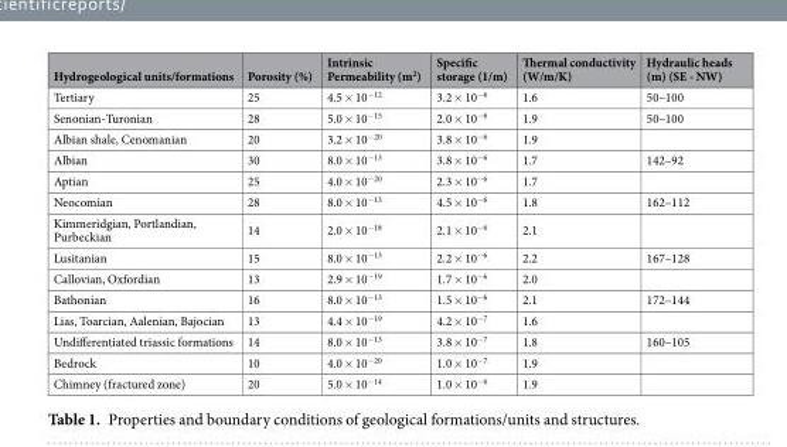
<table><thead><tr><td>Hydrogeological units/formations</td><td>Porosity (%)</td><td>Intrinsic Permeability (m<sup>2</sup>)</td><td>Specific storage (1/m)</td><td>Thermal conductivity (W/m/K)</td><td>Hydraulic heads (m) (SE - NW)</td></tr></thead><tbody><tr><td>Tertiary</td><td>25</td><td>4.5 × 10<sup>−12</sup></td><td>3.2 × 10<sup>−6</sup></td><td>1.6</td><td>50–100</td></tr><tr><td>Senonian-Turonian</td><td>28</td><td>5.0 × 10<sup>−15</sup></td><td>2.0 × 10<sup>−6</sup></td><td>1.9</td><td>50–100</td></tr><tr><td>Albian shale, Cenomanian</td><td>20</td><td>3.2 × 10<sup>−20</sup></td><td>3.8 × 10<sup>−6</sup></td><td>1.9</td><td></td></tr><tr><td>Albian</td><td>30</td><td>8.0 × 10<sup>−13</sup></td><td>3.8 × 10<sup>−6</sup></td><td>1.7</td><td>142–92</td></tr><tr><td>Aptian</td><td>25</td><td>4.0 × 10<sup>−20</sup></td><td>2.3 × 10<sup>−6</sup></td><td>1.7</td><td></td></tr><tr><td>Neocomian</td><td>28</td><td>8.0 × 10<sup>−13</sup></td><td>4.5 × 10<sup>−6</sup></td><td>1.8</td><td>162–112</td></tr><tr><td>Kimmeridgian, Portlandian, Purbeckian</td><td>14</td><td>2.0 × 10<sup>−18</sup></td><td>2.1 × 10<sup>−6</sup></td><td>2.1</td><td></td></tr><tr><td>Lusitanian</td><td>15</td><td>8.0 × 10<sup>−13</sup></td><td>2.2 × 10<sup>−6</sup></td><td>2.2</td><td>167–128</td></tr><tr><td>Callovian, Oxfordian</td><td>13</td><td>2.9 × 10<sup>−19</sup></td><td>1.7 × 10<sup>−6</sup></td><td>2.0</td><td></td></tr><tr><td>Bathonian</td><td>16</td><td>8.0 × 10<sup>−13</sup></td><td>1.5 × 10<sup>−6</sup></td><td>2.1</td><td>172–144</td></tr><tr><td>Lias, Toarcian, Aalenian, Bajocian</td><td>13</td><td>4.4 × 10<sup>−19</sup></td><td>4.2 × 10<sup>−7</sup></td><td>1.6</td><td></td></tr><tr><td>Undifferentiated triassic formations</td><td>14</td><td>8.0 × 10<sup>−13</sup></td><td>3.8 × 10<sup>−7</sup></td><td>1.8</td><td>160–105</td></tr><tr><td>Bedrock</td><td>10</td><td>4.0 × 10<sup>−20</sup></td><td>1.0 × 10<sup>−7</sup></td><td>1.9</td><td></td></tr><tr><td>Chimney (fractured zone)</td><td>20</td><td>5.0 × 10<sup>−14</sup></td><td>1.0 × 10<sup>−6</sup></td><td>1.9</td><td></td></tr></tbody></table>